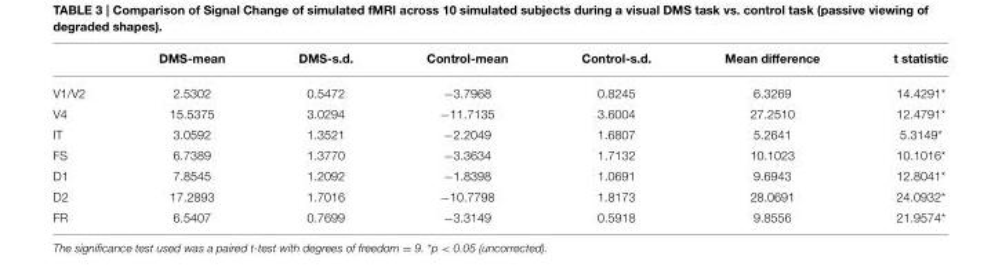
<table><thead><tr><td></td><td>DMS-mean</td><td>DMS-s.d.</td><td>Control-mean</td><td>Control-s.d.</td><td>Mean difference</td><td>t statistic</td></tr></thead><tbody><tr><td>V1/V2</td><td>2.5302</td><td>0.5472</td><td>−3.7968</td><td>0.8245</td><td>6.3269</td><td>14.4291*</td></tr><tr><td>V4</td><td>15.5375</td><td>3.0294</td><td>−11.7135</td><td>3.6004</td><td>27.2510</td><td>12.4791*</td></tr><tr><td>IT</td><td>3.0592</td><td>1.3521</td><td>−2.2049</td><td>1.6807</td><td>5.2641</td><td>5.3149*</td></tr><tr><td>FS</td><td>6.7389</td><td>1.3770</td><td>−3.3634</td><td>1.7132</td><td>10.1023</td><td>10.1016*</td></tr><tr><td>D1</td><td>7.8545</td><td>1.2092</td><td>−1.8398</td><td>1.0691</td><td>9.6943</td><td>12.8041*</td></tr><tr><td>D2</td><td>17.2893</td><td>1.7016</td><td>−10.7798</td><td>1.8173</td><td>28.0691</td><td>24.0932*</td></tr><tr><td>FR</td><td>6.5407</td><td>0.7699</td><td>−3.3149</td><td>0.5918</td><td>9.8556</td><td>21.9574*</td></tr></tbody></table>